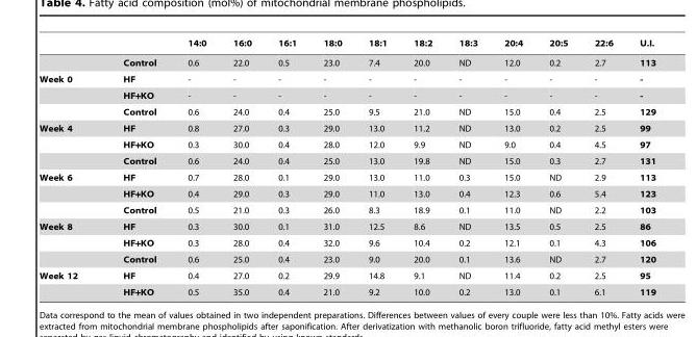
<table><thead><tr><td></td><td></td><td>14:0</td><td>16:0</td><td>16:1</td><td>18:0</td><td>18:1</td><td>18:2</td><td>18:3</td><td>20:4</td><td>20:5</td><td>22:6</td><td>U.I.</td></tr></thead><tbody><tr><td></td><td>Control</td><td>0.6</td><td>22.0</td><td>0.5</td><td>23.0</td><td>7.4</td><td>20.0</td><td>ND</td><td>12.0</td><td>0.2</td><td>2.7</td><td>113</td></tr><tr><td rowspan="3">Week 0</td><td>HF</td><td>-</td><td>-</td><td>-</td><td>-</td><td>-</td><td>-</td><td>-</td><td>-</td><td>-</td><td>-</td><td>-</td></tr><tr><td>HF+KO</td><td>-</td><td>-</td><td>-</td><td>-</td><td>-</td><td>-</td><td>-</td><td>-</td><td>-</td><td>-</td><td>-</td></tr><tr><td>Control</td><td>0.6</td><td>24.0</td><td>0.4</td><td>25.0</td><td>9.5</td><td>21.0</td><td>ND</td><td>15.0</td><td>0.4</td><td>2.5</td><td>129</td></tr><tr><td rowspan="3">Week 4</td><td>HF</td><td>0.8</td><td>27.0</td><td>0.3</td><td>29.0</td><td>13.0</td><td>11.2</td><td>ND</td><td>13.0</td><td>0.2</td><td>2.5</td><td>99</td></tr><tr><td>HF+KO</td><td>0.3</td><td>30.0</td><td>0.4</td><td>28.0</td><td>12.0</td><td>9.9</td><td>ND</td><td>9.0</td><td>0.4</td><td>4.5</td><td>97</td></tr><tr><td>Control</td><td>0.6</td><td>24.0</td><td>0.4</td><td>25.0</td><td>13.0</td><td>19.8</td><td>ND</td><td>15.0</td><td>0.3</td><td>2.7</td><td>131</td></tr><tr><td rowspan="3">Week 6</td><td>HF</td><td>0.7</td><td>28.0</td><td>0.1</td><td>29.0</td><td>13.0</td><td>11.0</td><td>0.3</td><td>15.0</td><td>ND</td><td>2.9</td><td>113</td></tr><tr><td>HF+KO</td><td>0.4</td><td>29.0</td><td>0.3</td><td>29.0</td><td>11.0</td><td>13.0</td><td>0.4</td><td>12.3</td><td>0.6</td><td>5.4</td><td>123</td></tr><tr><td>Control</td><td>0.5</td><td>21.0</td><td>0.3</td><td>26.0</td><td>8.3</td><td>18.9</td><td>0.1</td><td>11.0</td><td>ND</td><td>2.2</td><td>103</td></tr><tr><td rowspan="3">Week 8</td><td>HF</td><td>0.3</td><td>30.0</td><td>0.1</td><td>31.0</td><td>12.5</td><td>8.6</td><td>ND</td><td>13.5</td><td>0.5</td><td>2.5</td><td>86</td></tr><tr><td>HF+KO</td><td>0.3</td><td>28.0</td><td>0.4</td><td>32.0</td><td>9.6</td><td>10.4</td><td>0.2</td><td>12.1</td><td>0.1</td><td>4.3</td><td>106</td></tr><tr><td>Control</td><td>0.6</td><td>25.0</td><td>0.4</td><td>23.0</td><td>9.0</td><td>20.0</td><td>0.1</td><td>13.6</td><td>ND</td><td>2.7</td><td>120</td></tr><tr><td rowspan="2">Week 12</td><td>HF</td><td>0.4</td><td>27.0</td><td>0.2</td><td>29.9</td><td>14.8</td><td>9.1</td><td>ND</td><td>11.4</td><td>0.2</td><td>2.5</td><td>95</td></tr><tr><td>HF+KO</td><td>0.5</td><td>35.0</td><td>0.4</td><td>21.0</td><td>9.2</td><td>10.0</td><td>0.2</td><td>13.0</td><td>0.1</td><td>6.1</td><td>119</td></tr></tbody></table>